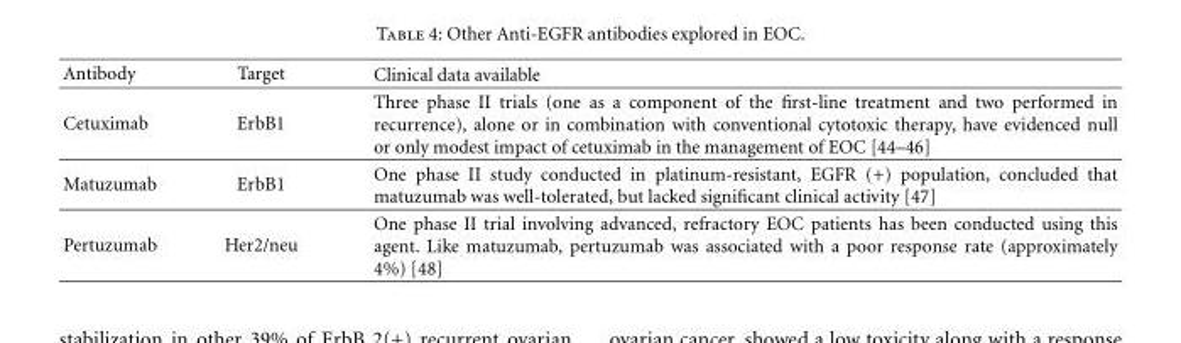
<table><thead><tr><td>Antibody</td><td>Target</td><td>Clinical data available</td></tr></thead><tbody><tr><td>Cetuximab</td><td>ErbB1</td><td>Three phase II trials (one as a component of the first-line treatment and two performed in recurrence), alone or in combination with conventional cytotoxic therapy, have evidenced null or only modest impact of cetuximab in the management of EOC [44–46]</td></tr><tr><td>Matuzumab</td><td>ErbB1</td><td>One phase II study conducted in platinum-resistant, EGFR (+) population, concluded that matuzumab was well-tolerated, but lacked significant clinical activity [47]</td></tr><tr><td>Pertuzumab</td><td>Her2/neu</td><td>One phase II trial involving advanced, refractory EOC patients has been conducted using this agent. Like matuzumab, pertuzumab was associated with a poor response rate (approximately 4%) [48]</td></tr></tbody></table>